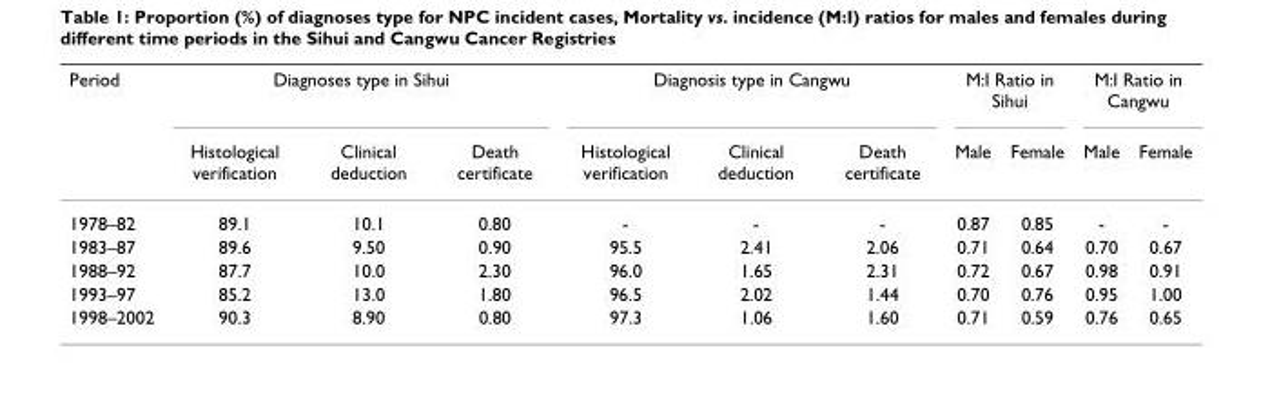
<table><thead><tr><td rowspan="2">Period</td><td colspan="3">Diagnoses type in Sihui</td><td colspan="3">Diagnosis type in Cangwu</td><td colspan="2">M:I Ratio in Sihui</td><td colspan="2">M:I Ratio in Cangwu</td></tr><tr><td>Histological verification</td><td>Clinical deduction</td><td>Death certificate</td><td>Histological verification</td><td>Clinical deduction</td><td>Death certificate</td><td>Male</td><td>Female</td><td>Male</td><td>Female</td></tr></thead><tbody><tr><td>1978–82</td><td>89.1</td><td>10.1</td><td>0.80</td><td>-</td><td>-</td><td>-</td><td>0.87</td><td>0.85</td><td>-</td><td>-</td></tr><tr><td>1983–87</td><td>89.6</td><td>9.50</td><td>0.90</td><td>95.5</td><td>2.41</td><td>2.06</td><td>0.71</td><td>0.64</td><td>0.70</td><td>0.67</td></tr><tr><td>1988–92</td><td>87.7</td><td>10.0</td><td>2.30</td><td>96.0</td><td>1.65</td><td>2.31</td><td>0.72</td><td>0.67</td><td>0.98</td><td>0.91</td></tr><tr><td>1993–97</td><td>85.2</td><td>13.0</td><td>1.80</td><td>96.5</td><td>2.02</td><td>1.44</td><td>0.70</td><td>0.76</td><td>0.95</td><td>1.00</td></tr><tr><td>1998–2002</td><td>90.3</td><td>8.90</td><td>0.80</td><td>97.3</td><td>1.06</td><td>1.60</td><td>0.71</td><td>0.59</td><td>0.76</td><td>0.65</td></tr></tbody></table>